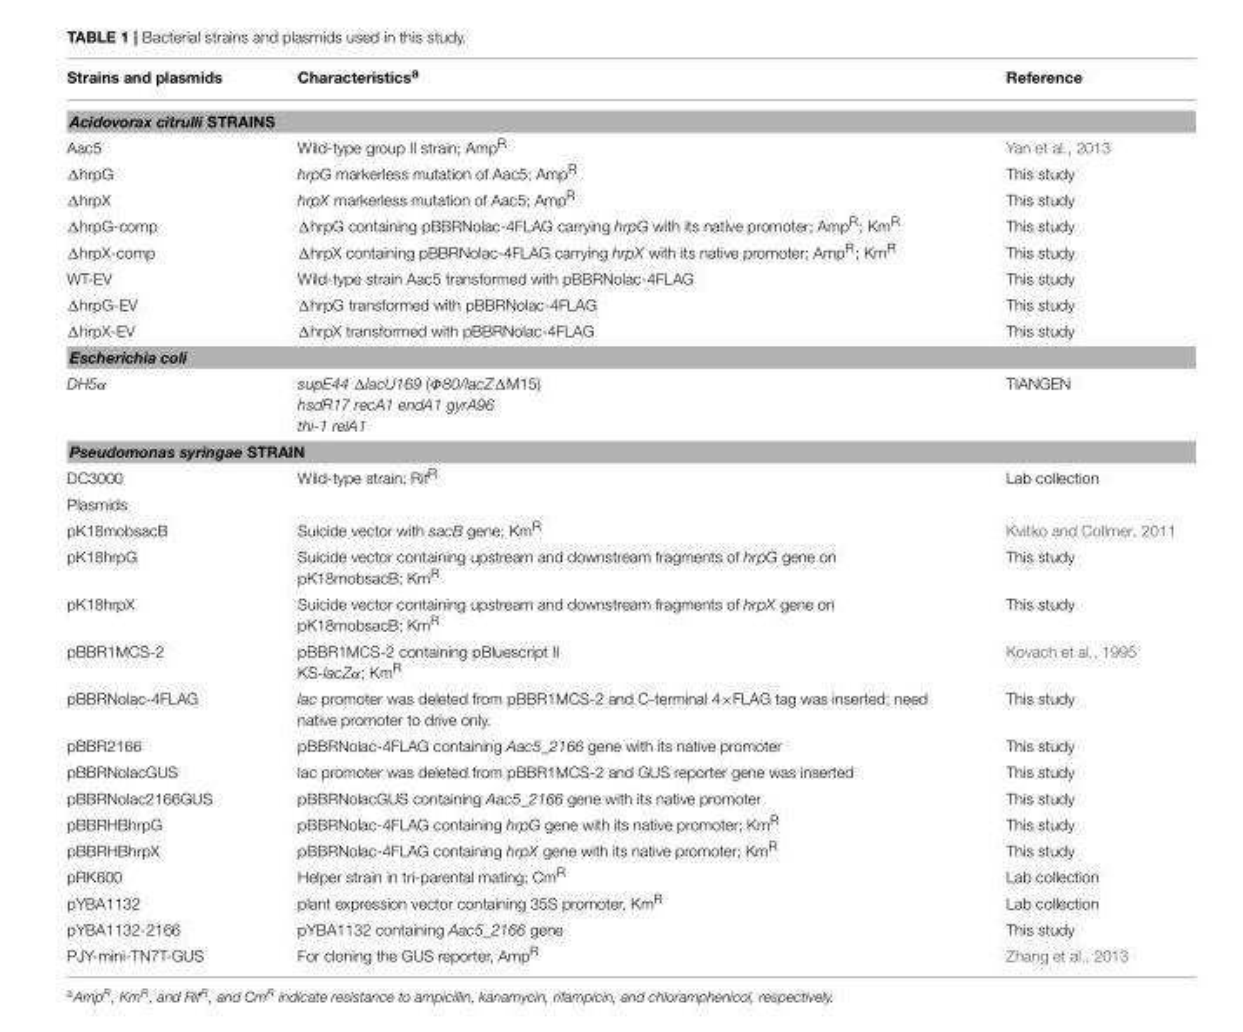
<table><thead><tr><td>Strains and plasmids</td><td>Characteristics<sup>a</sup></td><td>Reference</td></tr></thead><tbody><tr><td colspan="3">Acidovorax citrulli STRAINS</td></tr><tr><td>Aac5</td><td>Wild-type group II strain; Amp<sup>R</sup></td><td>Yan et al., 2013</td></tr><tr><td>ΔhrpG</td><td>hrpG markerless mutation of Aac5; Amp<sup>R</sup></td><td>This study</td></tr><tr><td>ΔhrpX</td><td>hrpX markerless mutation of Aac5; Amp<sup>R</sup></td><td>This study</td></tr><tr><td>ΔhrpG-comp</td><td>ΔhrpG containing pBBRNolac-4FLAG carrying hrpG with its native promoter; Amp<sup>R</sup>; Km<sup>R</sup></td><td>This study</td></tr><tr><td>ΔhrpX-comp</td><td>ΔhrpX containing pBBRNolac-4FLAG carrying hrpX with its native promoter; Amp<sup>R</sup>; Km<sup>R</sup></td><td>This study</td></tr><tr><td>WT-EV</td><td>Wild-type strain Aac5 transformed with pBBRNolac-4FLAG</td><td>This study</td></tr><tr><td>ΔhrpG-EV</td><td>ΔhrpG transformed with pBBRNolac-4FLAG</td><td>This study</td></tr><tr><td>ΔhrpX-EV</td><td>ΔhrpX transformed with pBBRNolac-4FLAG</td><td>This study</td></tr><tr><td colspan="3">Escherichia coli</td></tr><tr><td>DH5α</td><td>supE44 ΔlacU169 (Φ80/lacZΔM15) hsdR17 recA1 endA1 gyrA96 thi-1 relA1</td><td>TIANGEN</td></tr><tr><td colspan="3">Pseudomonas syringae STRAIN</td></tr><tr><td>DC3000</td><td>Wild-type strain; Rif<sup>R</sup></td><td>Lab collection</td></tr><tr><td colspan="3">Plasmids</td></tr><tr><td>pK18mobsacB</td><td>Suicide vector with sacB gene; Km<sup>R</sup></td><td>Kvitko and Collmer, 2011</td></tr><tr><td>pK18hrpG</td><td>Suicide vector containing upstream and downstream fragments of hrpG gene on pK18mobsacB; Km<sup>R</sup></td><td>This study</td></tr><tr><td>pK18hrpX</td><td>Suicide vector containing upstream and downstream fragments of hrpX gene on pK18mobsacB; Km<sup>R</sup></td><td>This study</td></tr><tr><td>pBBR1MCS-2</td><td>pBBR1MCS-2 containing pBluescript II KS-lacZα; Km<sup>R</sup></td><td>Kovach et al., 1995</td></tr><tr><td>pBBRNolac-4FLAG</td><td>lac promoter was deleted from pBBR1MCS-2 and C-terminal 4×FLAG tag was inserted; need native promoter to drive only.</td><td>This study</td></tr><tr><td>pBBR2166</td><td>pBBRNolac-4FLAG containing Aac5_2166 gene with its native promoter</td><td>This study</td></tr><tr><td>pBBRNolacGUS</td><td>lac promoter was deleted from pBBR1MCS-2 and GUS reporter gene was inserted</td><td>This study</td></tr><tr><td>pBBRNolac2166GUS</td><td>pBBRNolacGUS containing Aac5_2166 gene with its native promoter</td><td>This study</td></tr><tr><td>pBBRHBhrpG</td><td>pBBRNolac-4FLAG containing hrpG gene with its native promoter; Km<sup>R</sup></td><td>This study</td></tr><tr><td>pBBRHBhrpX</td><td>pBBRNolac-4FLAG containing hrpX gene with its native promoter; Km<sup>R</sup></td><td>This study</td></tr><tr><td>pRK600</td><td>Helper strain in tri-parental mating; Cm<sup>R</sup></td><td>Lab collection</td></tr><tr><td>pYBA1132</td><td>plant expression vector containing 35S promoter, Km<sup>R</sup></td><td>Lab collection</td></tr><tr><td>pYBA1132-2166</td><td>pYBA1132 containing Aac5_2166 gene</td><td>This study</td></tr><tr><td>PJY-mini-TN7T-GUS</td><td>For cloning the GUS reporter, Amp<sup>R</sup></td><td>Zhang et al., 2013</td></tr></tbody></table>